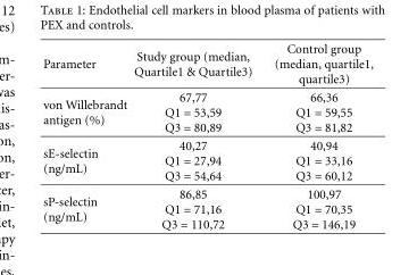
<table><thead><tr><td>Parameter</td><td>Study group (median, Quartile1 &amp; Quartile3)</td><td>Control group (median, quartile1, quartile3)</td></tr></thead><tbody><tr><td>von Willebrandt antigen (%)</td><td>67,77 Q1 = 53,59 Q3 = 80,89</td><td>66,36 Q1 = 59,55 Q3 = 81,82</td></tr><tr><td>sE-selectin (ng/mL)</td><td>40,27 Q1 = 27,94 Q3 = 54,64</td><td>40,94 Q1 = 33,16 Q3 = 60,12</td></tr><tr><td>sP-selectin (ng/mL)</td><td>86,85 Q1 = 71,16 Q3 = 110,72</td><td>100,97 Q1 = 70,35 Q3 = 146,19</td></tr></tbody></table>